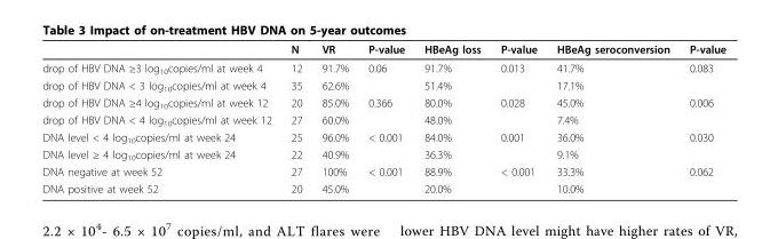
<table><thead><tr><td></td><td>N</td><td>VR</td><td>P-value</td><td>HBeAg loss</td><td>P-value</td><td>HBeAg seroconversion</td><td>P-value</td></tr></thead><tbody><tr><td>drop of HBV DNA ≥3 log<sub>10</sub>copies/ml at week 4</td><td>12</td><td>91.7%</td><td>0.06</td><td>91.7%</td><td>0.013</td><td>41.7%</td><td>0.083</td></tr><tr><td>drop of HBV DNA &lt; 3 log<sub>10</sub>copies/ml at week 4</td><td>35</td><td>62.6%</td><td></td><td>51.4%</td><td></td><td>17.1%</td><td></td></tr><tr><td>drop of HBV DNA ≥4 log<sub>10</sub>copies/ml at week 12</td><td>20</td><td>85.0%</td><td>0.366</td><td>80.0%</td><td>0.028</td><td>45.0%</td><td>0.006</td></tr><tr><td>drop of HBV DNA &lt; 4 log<sub>10</sub>copies/ml at week 12</td><td>27</td><td>60.0%</td><td></td><td>48.0%</td><td></td><td>7.4%</td><td></td></tr><tr><td>DNA level &lt; 4 log<sub>10</sub>copies/ml at week 24</td><td>25</td><td>96.0%</td><td>&lt; 0.001</td><td>84.0%</td><td>0.001</td><td>36.0%</td><td>0.030</td></tr><tr><td>DNA level ≥ 4 log<sub>10</sub>copies/ml at week 24</td><td>22</td><td>40.9%</td><td></td><td>36.3%</td><td></td><td>9.1%</td><td></td></tr><tr><td>DNA negative at week 52</td><td>27</td><td>100%</td><td>&lt; 0.001</td><td>88.9%</td><td>&lt; 0.001</td><td>33.3%</td><td>0.062</td></tr><tr><td>DNA positive at week 52</td><td>20</td><td>45.0%</td><td></td><td>20.0%</td><td></td><td>10.0%</td><td></td></tr></tbody></table>